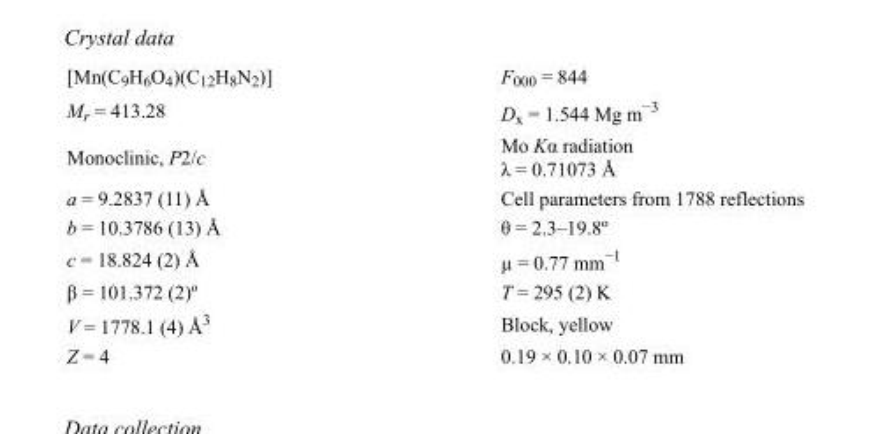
<table><tbody><tr><td>[Mn(C<sub>9</sub>H<sub>6</sub>O<sub>4</sub>)(C<sub>12</sub>H<sub>8</sub>N<sub>2</sub>)]</td><td>F<sub>000</sub> = 844</td></tr><tr><td>M<sub>r</sub> = 413.28</td><td>D<sub>x</sub> = 1.544 Mg m<sup>−3</sup></td></tr><tr><td>Monoclinic, P2/c</td><td>Mo Kα radiation λ = 0.71073 Å</td></tr><tr><td>a = 9.2837 (11) Å</td><td>Cell parameters from 1788 reflections</td></tr><tr><td>b = 10.3786 (13) Å</td><td>θ = 2.3–19.8º</td></tr><tr><td>c = 18.824 (2) Å</td><td>µ = 0.77 mm<sup>−1</sup></td></tr><tr><td>β = 101.372 (2)º</td><td>T = 295 (2) K</td></tr><tr><td>V = 1778.1 (4) Å<sup>3</sup></td><td>Block, yellow</td></tr><tr><td>Z = 4</td><td>0.19 × 0.10 × 0.07 mm</td></tr></tbody></table>